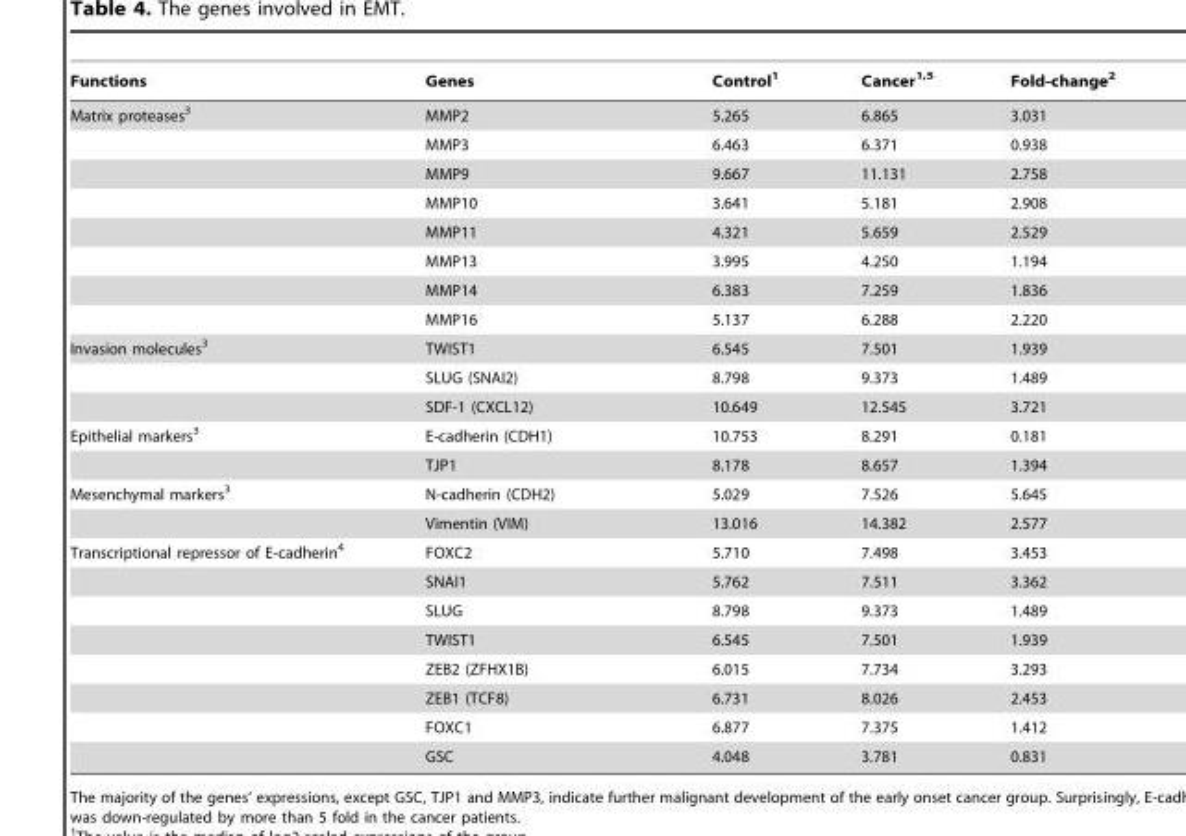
<table><thead><tr><td>Functions</td><td>Genes</td><td>Control<sup>1</sup></td><td>Cancer<sup>1,</sup>5</td><td>Fold-change<sup>2</sup></td></tr></thead><tbody><tr><td rowspan="8">Matrix proteases<sup>3</sup></td><td>MMP2</td><td>5.265</td><td>6.865</td><td>3.031</td></tr><tr><td>MMP3</td><td>6.463</td><td>6.371</td><td>0.938</td></tr><tr><td>MMP9</td><td>9.667</td><td>11.131</td><td>2.758</td></tr><tr><td>MMP10</td><td>3.641</td><td>5.181</td><td>2.908</td></tr><tr><td>MMP11</td><td>4.321</td><td>5.659</td><td>2.529</td></tr><tr><td>MMP13</td><td>3.995</td><td>4.250</td><td>1.194</td></tr><tr><td>MMP14</td><td>6.383</td><td>7.259</td><td>1.836</td></tr><tr><td>MMP16</td><td>5.137</td><td>6.288</td><td>2.220</td></tr><tr><td rowspan="3">Invasion molecules<sup>3</sup></td><td>TWIST1</td><td>6.545</td><td>7.501</td><td>1.939</td></tr><tr><td>SLUG (SNAI2)</td><td>8.798</td><td>9.373</td><td>1.489</td></tr><tr><td>SDF-1 (CXCL12)</td><td>10.649</td><td>12.545</td><td>3.721</td></tr><tr><td rowspan="2">Epithelial markers<sup>3</sup></td><td>E-cadherin (CDH1)</td><td>10.753</td><td>8.291</td><td>0.181</td></tr><tr><td>TJP1</td><td>8.178</td><td>8.657</td><td>1.394</td></tr><tr><td rowspan="2">Mesenchymal markers<sup>3</sup></td><td>N-cadherin (CDH2)</td><td>5.029</td><td>7.526</td><td>5.645</td></tr><tr><td>Vimentin (VIM)</td><td>13.016</td><td>14.382</td><td>2.577</td></tr><tr><td rowspan="8">Transcriptional repressor of E-cadherin<sup>4</sup></td><td>FOXC2</td><td>5.710</td><td>7.498</td><td>3.453</td></tr><tr><td>SNAI1</td><td>5.762</td><td>7.511</td><td>3.362</td></tr><tr><td>SLUG</td><td>8.798</td><td>9.373</td><td>1.489</td></tr><tr><td>TWIST1</td><td>6.545</td><td>7.501</td><td>1.939</td></tr><tr><td>ZEB2 (ZFHX1B)</td><td>6.015</td><td>7.734</td><td>3.293</td></tr><tr><td>ZEB1 (TCF8)</td><td>6.731</td><td>8.026</td><td>2.453</td></tr><tr><td>FOXC1</td><td>6.877</td><td>7.375</td><td>1.412</td></tr><tr><td>GSC</td><td>4.048</td><td>3.781</td><td>0.831</td></tr></tbody></table>